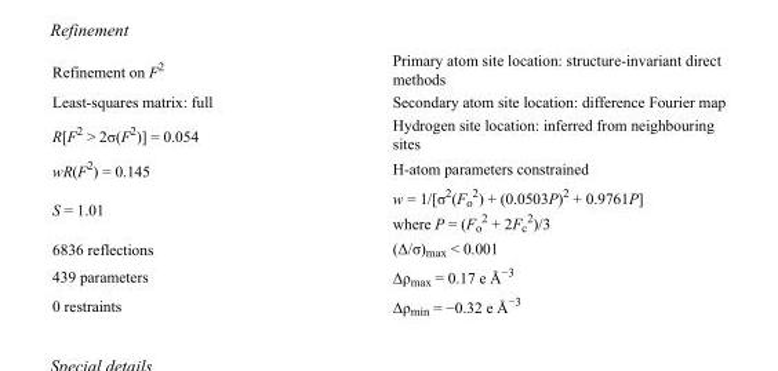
<table><tbody><tr><td>Refinement on F<sup>2</sup></td><td>Primary atom site location: structure-invariant direct methods</td></tr><tr><td>Least-squares matrix: full</td><td>Secondary atom site location: difference Fourier map</td></tr><tr><td>R[F<sup>2</sup> &gt; 2σ(F<sup>2</sup>)] = 0.054</td><td>Hydrogen site location: inferred from neighbouring sites</td></tr><tr><td>wR(F<sup>2</sup>) = 0.145</td><td>H-atom parameters constrained</td></tr><tr><td>S = 1.01</td><td>w = 1/[σ<sup>2</sup>(F<sub>o</sub> <sup>2</sup>) + (0.0503P)<sup>2</sup> + 0.9761P] where P = (F<sub>o</sub> <sup>2</sup> + 2F<sub>c</sub> <sup>2</sup>)/3</td></tr><tr><td>6836 reflections</td><td>(Δ/σ)<sub>max</sub> &lt; 0.001</td></tr><tr><td>439 parameters</td><td>Δρ<sub>max</sub> = 0.17 e Å<sup>−3</sup></td></tr><tr><td>0 restraints</td><td>Δρ<sub>min</sub> = −0.32 e Å<sup>−3</sup></td></tr></tbody></table>